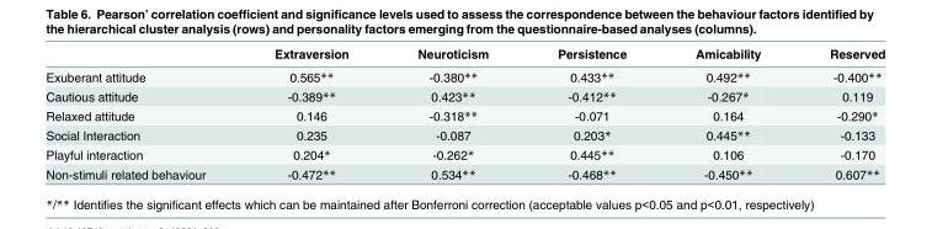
<table><thead><tr><td></td><td>Extraversion</td><td>Neuroticism</td><td>Persistence</td><td>Amicability</td><td>Reserved</td></tr></thead><tbody><tr><td>Exuberant attitude</td><td>0.565**</td><td>-0.380**</td><td>0.433**</td><td>0.492**</td><td>-0.400**</td></tr><tr><td>Cautious attitude</td><td>-0.389**</td><td>0.423**</td><td>-0.412**</td><td>-0.267*</td><td>0.119</td></tr><tr><td>Relaxed attitude</td><td>0.146</td><td>-0.318**</td><td>-0.071</td><td>0.164</td><td>-0.290*</td></tr><tr><td>Social Interaction</td><td>0.235</td><td>-0.087</td><td>0.203*</td><td>0.445**</td><td>-0.133</td></tr><tr><td>Playful interaction</td><td>0.204*</td><td>-0.262*</td><td>0.445**</td><td>0.106</td><td>-0.170</td></tr><tr><td>Non-stimuli related behaviour</td><td>-0.472**</td><td>0.534**</td><td>-0.468**</td><td>-0.450**</td><td>0.607**</td></tr></tbody></table>